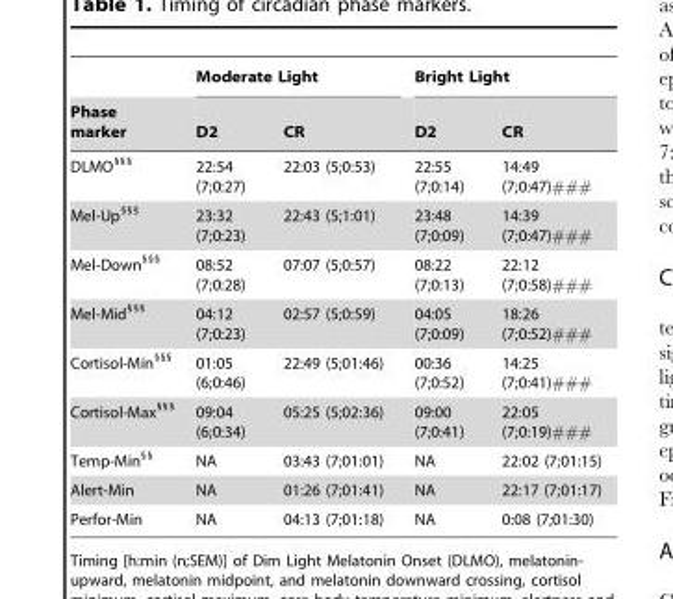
<table><thead><tr><td rowspan="2">Phase marker</td><td colspan="2">Moderate Light</td><td colspan="2">Bright Light</td></tr><tr><td>D2</td><td>CR</td><td>D2</td><td>CR</td></tr></thead><tbody><tr><td>DLMO§§§</td><td>22:54 (7;0:27)</td><td>22:03 (5;0:53)</td><td>22:55 (7;0:14)</td><td>14:49 (7;0:47)###</td></tr><tr><td>Mel-Up§§§</td><td>23:32 (7;0:23)</td><td>22:43 (5;1:01)</td><td>23:48 (7;0:09)</td><td>14:39 (7;0:47)###</td></tr><tr><td>Mel-Down§§§</td><td>08:52 (7;0:28)</td><td>07:07 (5;0:57)</td><td>08:22 (7;0:13)</td><td>22:12 (7;0:58)###</td></tr><tr><td>Mel-Mid§§§</td><td>04:12 (7;0:23)</td><td>02:57 (5;0:59)</td><td>04:05 (7;0:09)</td><td>18:26 (7;0:52)###</td></tr><tr><td>Cortisol-Min§§§</td><td>01:05 (6;0:46)</td><td>22:49 (5;01:46)</td><td>00:36 (7;0:52)</td><td>14:25 (7;0:41)###</td></tr><tr><td>Cortisol-Max§§§</td><td>09:04 (6;0:34)</td><td>05:25 (5;02:36)</td><td>09:00 (7;0:41)</td><td>22:05 (7;0:19)###</td></tr><tr><td>Temp-Min§§</td><td>NA</td><td>03:43 (7;01:01)</td><td>NA</td><td>22:02 (7;01:15)</td></tr><tr><td>Alert-Min</td><td>NA</td><td>01:26 (7;01:41)</td><td>NA</td><td>22:17 (7;01:17)</td></tr><tr><td>Perfor-Min</td><td>NA</td><td>04:13 (7;01:18)</td><td>NA</td><td>0:08 (7;01:30)</td></tr></tbody></table>